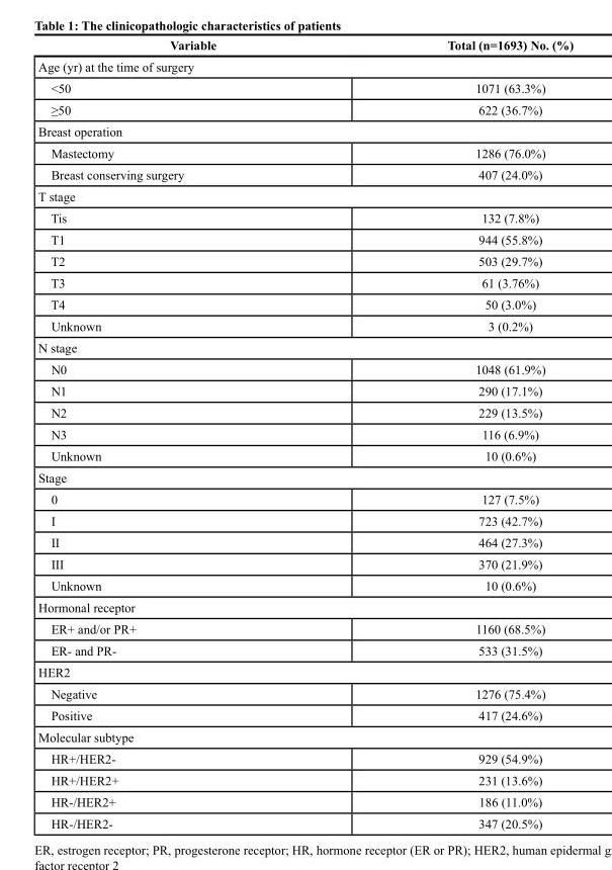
<table><thead><tr><td>Variable</td><td>Total (n=1693) No. (%)</td></tr></thead><tbody><tr><td colspan="2">Age (yr) at the time of surgery</td></tr><tr><td>&lt;50</td><td>1071 (63.3%)</td></tr><tr><td>≥50</td><td>622 (36.7%)</td></tr><tr><td colspan="2">Breast operation</td></tr><tr><td>Mastectomy</td><td>1286 (76.0%)</td></tr><tr><td>Breast conserving surgery</td><td>407 (24.0%)</td></tr><tr><td colspan="2">T stage</td></tr><tr><td>Tis</td><td>132 (7.8%)</td></tr><tr><td>T1</td><td>944 (55.8%)</td></tr><tr><td>T2</td><td>503 (29.7%)</td></tr><tr><td>T3</td><td>61 (3.76%)</td></tr><tr><td>T4</td><td>50 (3.0%)</td></tr><tr><td>Unknown</td><td>3 (0.2%)</td></tr><tr><td colspan="2">N stage</td></tr><tr><td>N0</td><td>1048 (61.9%)</td></tr><tr><td>N1</td><td>290 (17.1%)</td></tr><tr><td>N2</td><td>229 (13.5%)</td></tr><tr><td>N3</td><td>116 (6.9%)</td></tr><tr><td>Unknown</td><td>10 (0.6%)</td></tr><tr><td colspan="2">Stage</td></tr><tr><td>0</td><td>127 (7.5%)</td></tr><tr><td>I</td><td>723 (42.7%)</td></tr><tr><td>II</td><td>464 (27.3%)</td></tr><tr><td>III</td><td>370 (21.9%)</td></tr><tr><td>Unknown</td><td>10 (0.6%)</td></tr><tr><td colspan="2">Hormonal receptor</td></tr><tr><td>ER+ and/or PR+</td><td>1160 (68.5%)</td></tr><tr><td>ER- and PR-</td><td>533 (31.5%)</td></tr><tr><td colspan="2">HER2</td></tr><tr><td>Negative</td><td>1276 (75.4%)</td></tr><tr><td>Positive</td><td>417 (24.6%)</td></tr><tr><td colspan="2">Molecular subtype</td></tr><tr><td>HR+/HER2-</td><td>929 (54.9%)</td></tr><tr><td>HR+/HER2+</td><td>231 (13.6%)</td></tr><tr><td>HR-/HER2+</td><td>186 (11.0%)</td></tr><tr><td>HR-/HER2-</td><td>347 (20.5%)</td></tr></tbody></table>